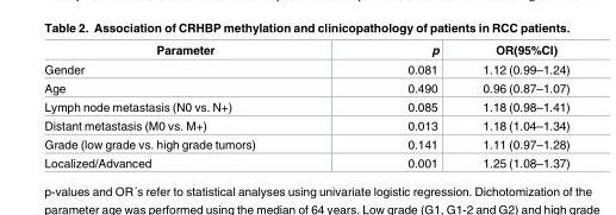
<table><thead><tr><td>Parameter</td><td>p</td><td>OR(95%CI)</td></tr></thead><tbody><tr><td>Gender</td><td>0.081</td><td>1.12 (0.99–1.24)</td></tr><tr><td>Age</td><td>0.490</td><td>0.96 (0.87–1.07)</td></tr><tr><td>Lymph node metastasis (N0 vs. N+)</td><td>0.085</td><td>1.18 (0.98–1.41)</td></tr><tr><td>Distant metastasis (M0 vs. M+)</td><td>0.013</td><td>1.18 (1.04–1.34)</td></tr><tr><td>Grade (low grade vs. high grade tumors)</td><td>0.141</td><td>1.11 (0.97–1.28)</td></tr><tr><td>Localized/Advanced</td><td>0.001</td><td>1.25 (1.08–1.37)</td></tr></tbody></table>